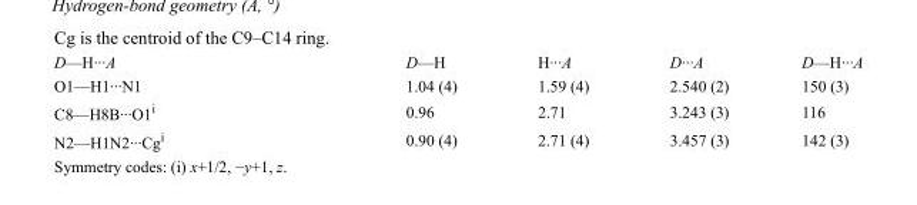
<table><tbody><tr><td>D—H···A</td><td>D—H</td><td>H···A</td><td>D···A</td><td>D—H···A</td></tr><tr><td>O1—H1···N1</td><td>1.04 (4)</td><td>1.59 (4)</td><td>2.540 (2)</td><td>150 (3)</td></tr><tr><td>C8—H8B···O1<sup>i</sup></td><td>0.96</td><td>2.71</td><td>3.243 (3)</td><td>116</td></tr><tr><td>N2—H1N2···Cg<sup>i</sup></td><td>0.90 (4)</td><td>2.71 (4)</td><td>3.457 (3)</td><td>142 (3)</td></tr></tbody></table>